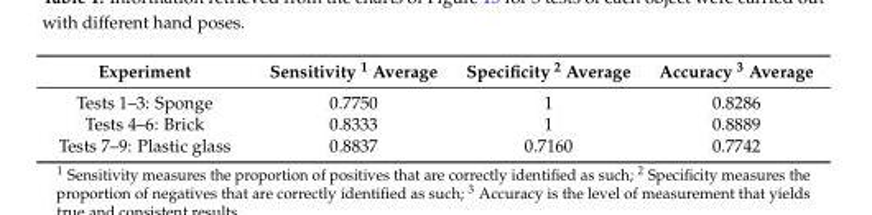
<table><thead><tr><td>Experiment</td><td>Sensitivity <sup>1</sup> Average</td><td>Specificity <sup>2</sup> Average</td><td>Accuracy <sup>3</sup> Average</td></tr></thead><tbody><tr><td>Tests 1–3: Sponge</td><td>0.7750</td><td>1</td><td>0.8286</td></tr><tr><td>Tests 4–6: Brick</td><td>0.8333</td><td>1</td><td>0.8889</td></tr><tr><td>Tests 7–9: Plastic glass</td><td>0.8837</td><td>0.7160</td><td>0.7742</td></tr></tbody></table>